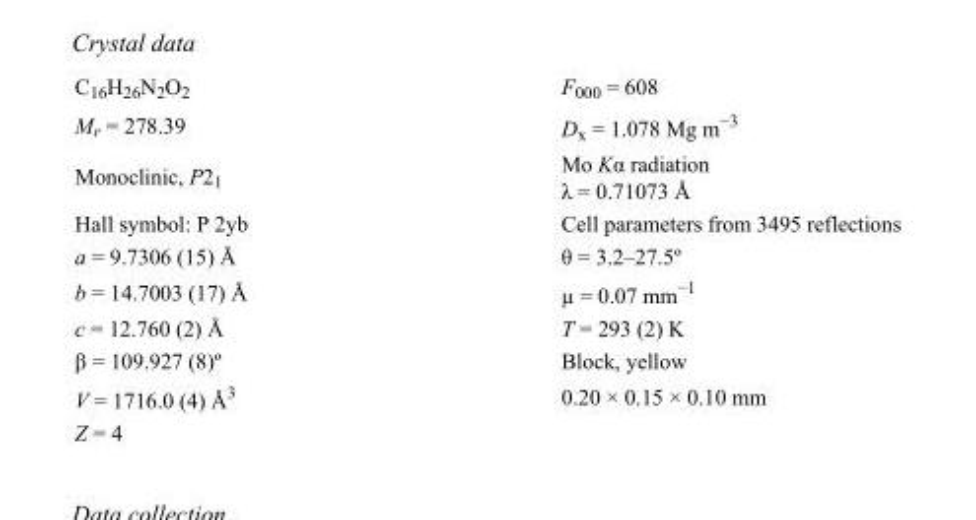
<table><tbody><tr><td>C<sub>16</sub>H<sub>26</sub>N<sub>2</sub>O<sub>2</sub></td><td>F<sub>000</sub> = 608</td></tr><tr><td>M<sub>r</sub> = 278.39</td><td>D<sub>x</sub> = 1.078 Mg m<sup>−3</sup></td></tr><tr><td>Monoclinic, P2<sub>1</sub></td><td>Mo Kα radiation λ = 0.71073 Å</td></tr><tr><td>Hall symbol: P 2yb</td><td>Cell parameters from 3495 reflections</td></tr><tr><td>a = 9.7306 (15) Å</td><td>θ = 3.2–27.5º</td></tr><tr><td>b = 14.7003 (17) Å</td><td>µ = 0.07 mm<sup>−1</sup></td></tr><tr><td>c = 12.760 (2) Å</td><td>T = 293 (2) K</td></tr><tr><td>β = 109.927 (8)º</td><td>Block, yellow</td></tr><tr><td>V = 1716.0 (4) Å<sup>3</sup></td><td>0.20 × 0.15 × 0.10 mm</td></tr><tr><td>Z = 4</td><td></td></tr></tbody></table>